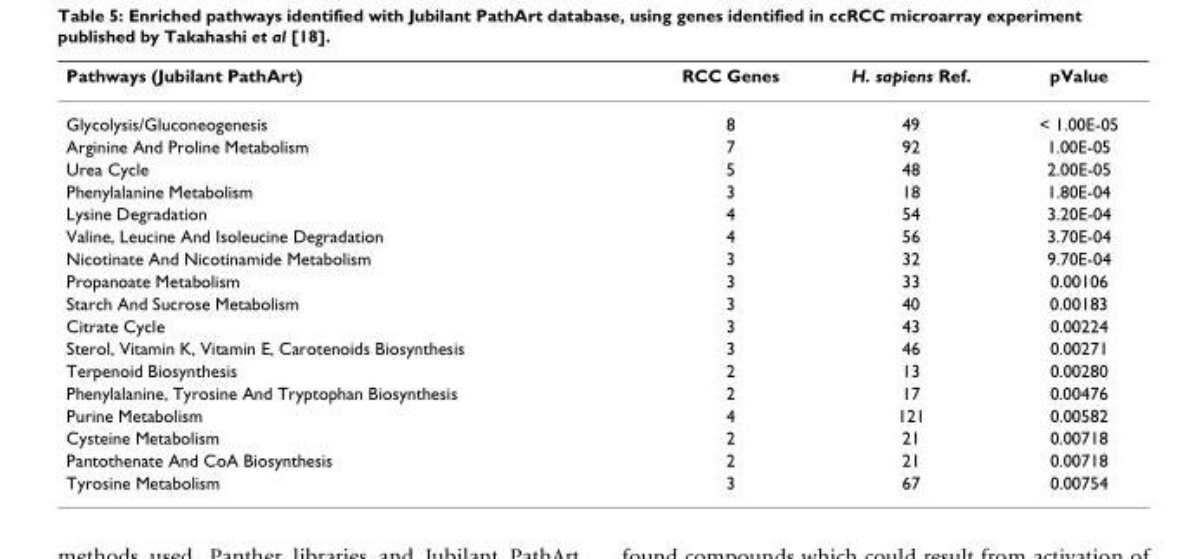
<table><thead><tr><td>Pathways (Jubilant PathArt)</td><td>RCC Genes</td><td>H. sapiens Ref.</td><td>pValue</td></tr></thead><tbody><tr><td>Glycolysis/Gluconeogenesis</td><td>8</td><td>49</td><td>&lt; 1.00E-05</td></tr><tr><td>Arginine And Proline Metabolism</td><td>7</td><td>92</td><td>1.00E-05</td></tr><tr><td>Urea Cycle</td><td>5</td><td>48</td><td>2.00E-05</td></tr><tr><td>Phenylalanine Metabolism</td><td>3</td><td>18</td><td>1.80E-04</td></tr><tr><td>Lysine Degradation</td><td>4</td><td>54</td><td>3.20E-04</td></tr><tr><td>Valine, Leucine And Isoleucine Degradation</td><td>4</td><td>56</td><td>3.70E-04</td></tr><tr><td>Nicotinate And Nicotinamide Metabolism</td><td>3</td><td>32</td><td>9.70E-04</td></tr><tr><td>Propanoate Metabolism</td><td>3</td><td>33</td><td>0.00106</td></tr><tr><td>Starch And Sucrose Metabolism</td><td>3</td><td>40</td><td>0.00183</td></tr><tr><td>Citrate Cycle</td><td>3</td><td>43</td><td>0.00224</td></tr><tr><td>Sterol, Vitamin K, Vitamin E, Carotenoids Biosynthesis</td><td>3</td><td>46</td><td>0.00271</td></tr><tr><td>Terpenoid Biosynthesis</td><td>2</td><td>13</td><td>0.00280</td></tr><tr><td>Phenylalanine, Tyrosine And Tryptophan Biosynthesis</td><td>2</td><td>17</td><td>0.00476</td></tr><tr><td>Purine Metabolism</td><td>4</td><td>121</td><td>0.00582</td></tr><tr><td>Cysteine Metabolism</td><td>2</td><td>21</td><td>0.00718</td></tr><tr><td>Pantothenate And CoA Biosynthesis</td><td>2</td><td>21</td><td>0.00718</td></tr><tr><td>Tyrosine Metabolism</td><td>3</td><td>67</td><td>0.00754</td></tr></tbody></table>